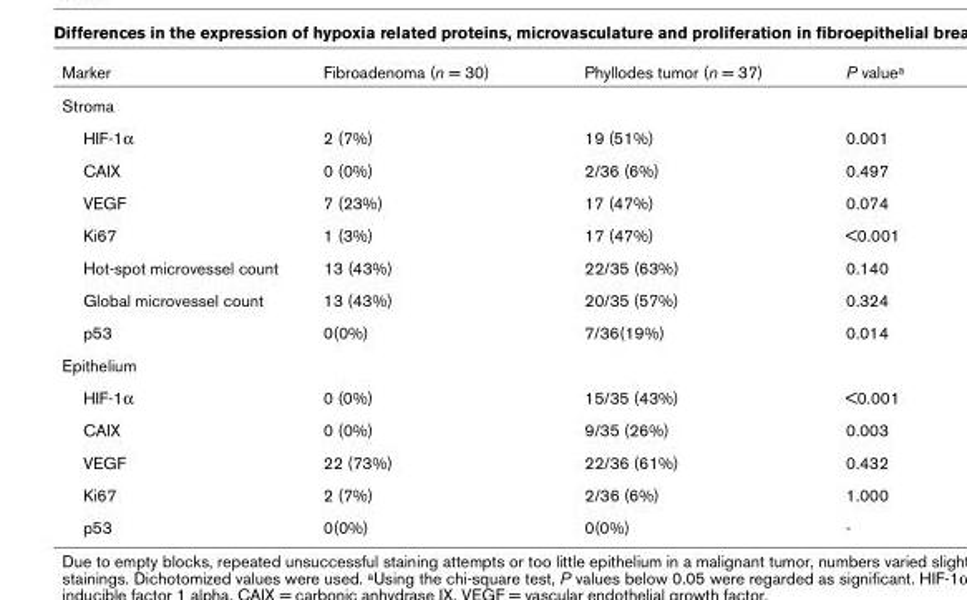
<table><thead><tr><td>Marker</td><td>Fibroadenoma (n = 30)</td><td>Phyllodes tumor (n = 37)</td><td>P valuea</td></tr></thead><tbody><tr><td colspan="4">Stroma</td></tr><tr><td>HIF-1α</td><td>2 (7%)</td><td>19 (51%)</td><td>0.001</td></tr><tr><td>CAIX</td><td>0 (0%)</td><td>2/36 (6%)</td><td>0.497</td></tr><tr><td>VEGF</td><td>7 (23%)</td><td>17 (47%)</td><td>0.074</td></tr><tr><td>Ki67</td><td>1 (3%)</td><td>17 (47%)</td><td>&lt;0.001</td></tr><tr><td>Hot-spot microvessel count</td><td>13 (43%)</td><td>22/35 (63%)</td><td>0.140</td></tr><tr><td>Global microvessel count</td><td>13 (43%)</td><td>20/35 (57%)</td><td>0.324</td></tr><tr><td>p53</td><td>0(0%)</td><td>7/36(19%)</td><td>0.014</td></tr><tr><td colspan="4">Epithelium</td></tr><tr><td>HIF-1α</td><td>0 (0%)</td><td>15/35 (43%)</td><td>&lt;0.001</td></tr><tr><td>CAIX</td><td>0 (0%)</td><td>9/35 (26%)</td><td>0.003</td></tr><tr><td>VEGF</td><td>22 (73%)</td><td>22/36 (61%)</td><td>0.432</td></tr><tr><td>Ki67</td><td>2 (7%)</td><td>2/36 (6%)</td><td>1.000</td></tr><tr><td>p53</td><td>0(0%)</td><td>0(0%)</td><td>-</td></tr></tbody></table>